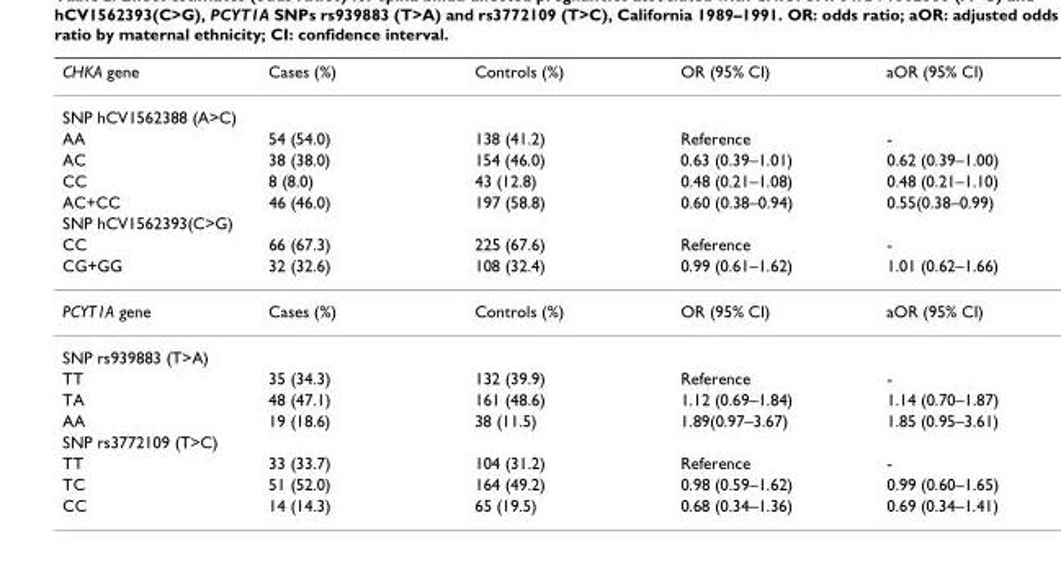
<table><thead><tr><td>CHKA gene</td><td>Cases (%)</td><td>Controls (%)</td><td>OR (95% CI)</td><td>aOR (95% CI)</td></tr></thead><tbody><tr><td colspan="5">SNP hCV1562388 (A&gt;C)</td></tr><tr><td>AA</td><td>54 (54.0)</td><td>138 (41.2)</td><td>Reference</td><td>-</td></tr><tr><td>AC</td><td>38 (38.0)</td><td>154 (46.0)</td><td>0.63 (0.39–1.01)</td><td>0.62 (0.39–1.00)</td></tr><tr><td>CC</td><td>8 (8.0)</td><td>43 (12.8)</td><td>0.48 (0.21–1.08)</td><td>0.48 (0.21–1.10)</td></tr><tr><td>AC+CC</td><td>46 (46.0)</td><td>197 (58.8)</td><td>0.60 (0.38–0.94)</td><td>0.55(0.38–0.99)</td></tr><tr><td colspan="5">SNP hCV1562393(C&gt;G)</td></tr><tr><td>CC</td><td>66 (67.3)</td><td>225 (67.6)</td><td>Reference</td><td>-</td></tr><tr><td>CG+GG</td><td>32 (32.6)</td><td>108 (32.4)</td><td>0.99 (0.61–1.62)</td><td>1.01 (0.62–1.66)</td></tr><tr><td>PCYT1A gene</td><td>Cases (%)</td><td>Controls (%)</td><td>OR (95% CI)</td><td>aOR (95% CI)</td></tr><tr><td colspan="5">SNP rs939883 (T&gt;A)</td></tr><tr><td>TT</td><td>35 (34.3)</td><td>132 (39.9)</td><td>Reference</td><td>-</td></tr><tr><td>TA</td><td>48 (47.1)</td><td>161 (48.6)</td><td>1.12 (0.69–1.84)</td><td>1.14 (0.70–1.87)</td></tr><tr><td>AA</td><td>19 (18.6)</td><td>38 (11.5)</td><td>1.89(0.97–3.67)</td><td>1.85 (0.95–3.61)</td></tr><tr><td colspan="5">SNP rs3772109 (T&gt;C)</td></tr><tr><td>TT</td><td>33 (33.7)</td><td>104 (31.2)</td><td>Reference</td><td>-</td></tr><tr><td>TC</td><td>51 (52.0)</td><td>164 (49.2)</td><td>0.98 (0.59–1.62)</td><td>0.99 (0.60–1.65)</td></tr><tr><td>CC</td><td>14 (14.3)</td><td>65 (19.5)</td><td>0.68 (0.34–1.36)</td><td>0.69 (0.34–1.41)</td></tr></tbody></table>